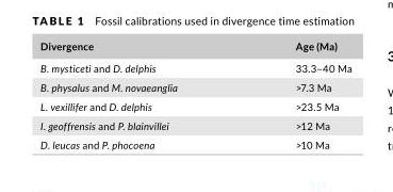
<table><thead><tr><td>Divergence</td><td>Age (Ma)</td></tr></thead><tbody><tr><td>B. mysticeti and D. delphis</td><td>33.3–40 Ma</td></tr><tr><td>B. physalus and M. novaeanglia</td><td>&gt;7.3 Ma</td></tr><tr><td>L. vexillifer and D. delphis</td><td>&gt;23.5 Ma</td></tr><tr><td>I. geoffrensis and P. blainvillei</td><td>&gt;12 Ma</td></tr><tr><td>D. leucas and P. phocoena</td><td>&gt;10 Ma</td></tr></tbody></table>